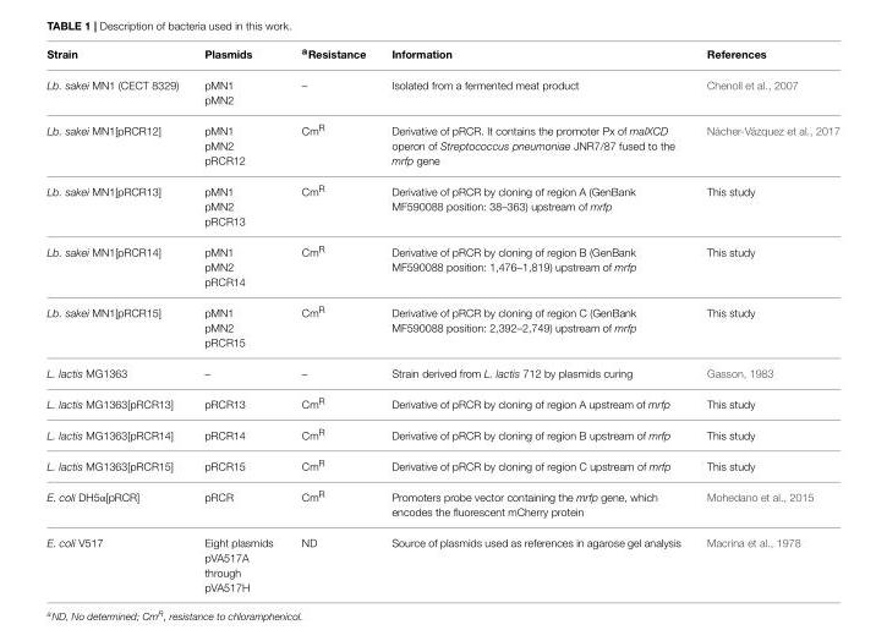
<table><thead><tr><td>Strain</td><td>Plasmids</td><td><sup>a</sup>Resistance</td><td>Information</td><td>References</td></tr></thead><tbody><tr><td>Lb. sakei MN1 (CECT 8329)</td><td>pMN1 pMN2</td><td>–</td><td>Isolated from a fermented meat product</td><td>Chenoll et al., 2007</td></tr><tr><td>Lb. sakei MN1[pRCR12]</td><td>pMN1 pMN2 pRCR12</td><td>Cm<sup>R</sup></td><td>Derivative of pRCR. It contains the promoter Px of malXCD operon of Streptococcus pneumoniae JNR7/87 fused to the mrfp gene</td><td>Nácher-Vázquez et al., 2017</td></tr><tr><td>Lb. sakei MN1[pRCR13]</td><td>pMN1 pMN2 pRCR13</td><td>Cm<sup>R</sup></td><td>Derivative of pRCR by cloning of region A (GenBank MF590088 position: 38–363) upstream of mrfp</td><td>This study</td></tr><tr><td>Lb. sakei MN1[pRCR14]</td><td>pMN1 pMN2 pRCR14</td><td>Cm<sup>R</sup></td><td>Derivative of pRCR by cloning of region B (GenBank MF590088 position: 1,476–1,819) upstream of mrfp</td><td>This study</td></tr><tr><td>Lb. sakei MN1[pRCR15]</td><td>pMN1 pMN2 pRCR15</td><td>Cm<sup>R</sup></td><td>Derivative of pRCR by cloning of region C (GenBank MF590088 position: 2,392–2,749) upstream of mrfp</td><td>This study</td></tr><tr><td>L. lactis MG1363</td><td>–</td><td>–</td><td>Strain derived from L. lactis 712 by plasmids curing</td><td>Gasson, 1983</td></tr><tr><td>L. lactis MG1363[pRCR13]</td><td>pRCR13</td><td>Cm<sup>R</sup></td><td>Derivative of pRCR by cloning of region A upstream of mrfp</td><td>This study</td></tr><tr><td>L. lactis MG1363[pRCR14]</td><td>pRCR14</td><td>Cm<sup>R</sup></td><td>Derivative of pRCR by cloning of region B upstream of mrfp</td><td>This study</td></tr><tr><td>L. lactis MG1363[pRCR15]</td><td>pRCR15</td><td>Cm<sup>R</sup></td><td>Derivative of pRCR by cloning of region C upstream of mrfp</td><td>This study</td></tr><tr><td>E. coli DH5α[pRCR]</td><td>pRCR</td><td>Cm<sup>R</sup></td><td>Promoters probe vector containing the mrfp gene, which encodes the fluorescent mCherry protein</td><td>Mohedano et al., 2015</td></tr><tr><td>E. coli V517</td><td>Eight plasmids pVA517A through pVA517H</td><td>ND</td><td>Source of plasmids used as references in agarose gel analysis</td><td>Macrina et al., 1978</td></tr></tbody></table>